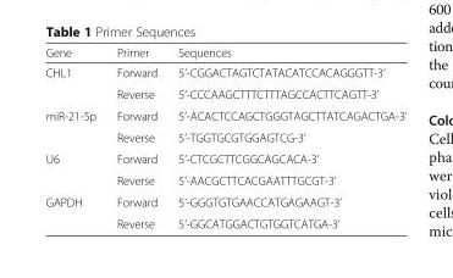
<table><thead><tr><td>Gene</td><td>Primer</td><td>Sequences</td></tr></thead><tbody><tr><td rowspan="2">CHL1</td><td>Forward</td><td>5’-CGGACTAGTCTATACATCCACAGGGTT-3’</td></tr><tr><td>Reverse</td><td>5’-CCCAAGCTTTCTTTAGCCACTTCAGTT-3’</td></tr><tr><td rowspan="2">miR-21-5p</td><td>Forward</td><td>5’-ACACTCCAGCTGGGTAGCTTATCAGACTGA-3’</td></tr><tr><td>Reverse</td><td>5’-TGGTGCGTGGAGTCG-3’</td></tr><tr><td rowspan="2">U6</td><td>Forward</td><td>5’-CTCGCTTCGGCAGCACA-3’</td></tr><tr><td>Reverse</td><td>5’-AACGCTTCACGAATTTGCGT-3’</td></tr><tr><td rowspan="2">GAPDH</td><td>Forward</td><td>5’-GGGTGTGAACCATGAGAAGT-3’</td></tr><tr><td>Reverse</td><td>5’-GGCATGGACTGTGGTCATGA-3’</td></tr></tbody></table>